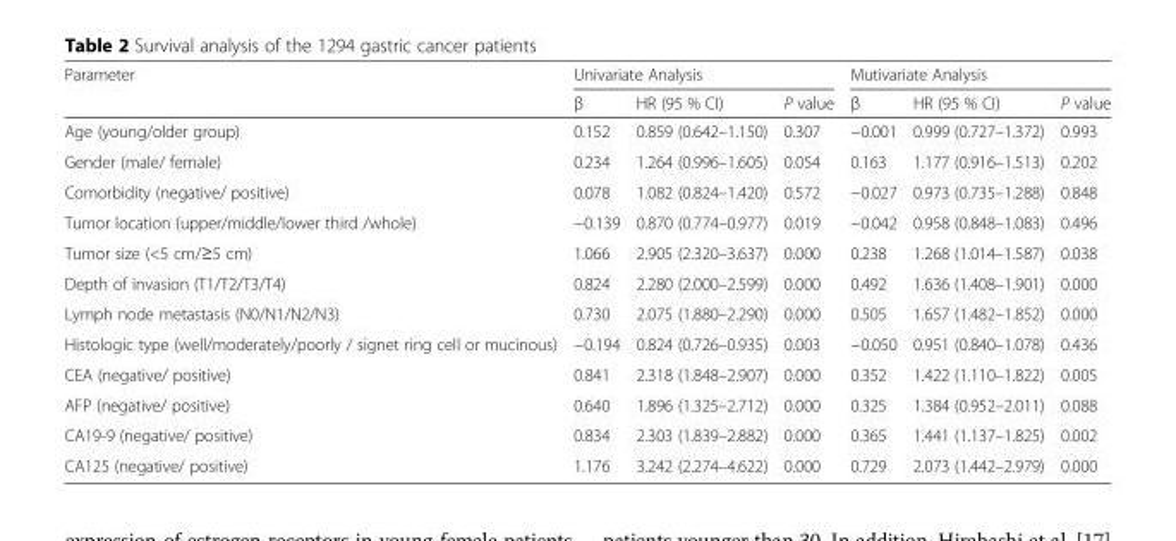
<table><thead><tr><td rowspan="2">Parameter</td><td colspan="3">Univariate Analysis</td><td colspan="3">Mutivariate Analysis</td></tr><tr><td>β</td><td>HR (95 % CI)</td><td>P value</td><td>β</td><td>HR (95 % CI)</td><td>P value</td></tr></thead><tbody><tr><td>Age (young/older group)</td><td>0.152</td><td>0.859 (0.642–1.150)</td><td>0.307</td><td>−0.001</td><td>0.999 (0.727–1.372)</td><td>0.993</td></tr><tr><td>Gender (male/ female)</td><td>0.234</td><td>1.264 (0.996–1.605)</td><td>0.054</td><td>0.163</td><td>1.177 (0.916–1.513)</td><td>0.202</td></tr><tr><td>Comorbidity (negative/ positive)</td><td>0.078</td><td>1.082 (0.824–1.420)</td><td>0.572</td><td>−0.027</td><td>0.973 (0.735–1.288)</td><td>0.848</td></tr><tr><td>Tumor location (upper/middle/lower third /whole)</td><td>−0.139</td><td>0.870 (0.774–0.977)</td><td>0.019</td><td>−0.042</td><td>0.958 (0.848–1.083)</td><td>0.496</td></tr><tr><td>Tumor size (&lt;5 cm/≥5 cm)</td><td>1.066</td><td>2.905 (2.320–3.637)</td><td>0.000</td><td>0.238</td><td>1.268 (1.014–1.587)</td><td>0.038</td></tr><tr><td>Depth of invasion (T1/T2/T3/T4)</td><td>0.824</td><td>2.280 (2.000–2.599)</td><td>0.000</td><td>0.492</td><td>1.636 (1.408–1.901)</td><td>0.000</td></tr><tr><td>Lymph node metastasis (N0/N1/N2/N3)</td><td>0.730</td><td>2.075 (1.880–2.290)</td><td>0.000</td><td>0.505</td><td>1.657 (1.482–1.852)</td><td>0.000</td></tr><tr><td>Histologic type (well/moderately/poorly / signet ring cell or mucinous)</td><td>−0.194</td><td>0.824 (0.726–0.935)</td><td>0.003</td><td>−0.050</td><td>0.951 (0.840–1.078)</td><td>0.436</td></tr><tr><td>CEA (negative/ positive)</td><td>0.841</td><td>2.318 (1.848–2.907)</td><td>0.000</td><td>0.352</td><td>1.422 (1.110–1.822)</td><td>0.005</td></tr><tr><td>AFP (negative/ positive)</td><td>0.640</td><td>1.896 (1.325–2.712)</td><td>0.000</td><td>0.325</td><td>1.384 (0.952–2.011)</td><td>0.088</td></tr><tr><td>CA19-9 (negative/ positive)</td><td>0.834</td><td>2.303 (1.839–2.882)</td><td>0.000</td><td>0.365</td><td>1.441 (1.137–1.825)</td><td>0.002</td></tr><tr><td>CA125 (negative/ positive)</td><td>1.176</td><td>3.242 (2.274–4.622)</td><td>0.000</td><td>0.729</td><td>2.073 (1.442–2.979)</td><td>0.000</td></tr></tbody></table>